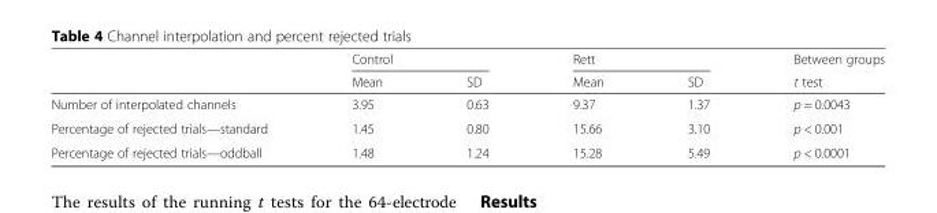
<table><thead><tr><td rowspan="2"></td><td colspan="2">Control</td><td colspan="2">Rett</td><td rowspan="2">Between groups t test</td></tr><tr><td>Mean</td><td>SD</td><td>Mean</td><td>SD</td></tr></thead><tbody><tr><td>Number of interpolated channels</td><td>3.95</td><td>0.63</td><td>9.37</td><td>1.37</td><td>p = 0.0043</td></tr><tr><td>Percentage of rejected trials—standard</td><td>1.45</td><td>0.80</td><td>15.66</td><td>3.10</td><td>p &lt; 0.001</td></tr><tr><td>Percentage of rejected trials—oddball</td><td>1.48</td><td>1.24</td><td>15.28</td><td>5.49</td><td>p &lt; 0.0001</td></tr></tbody></table>